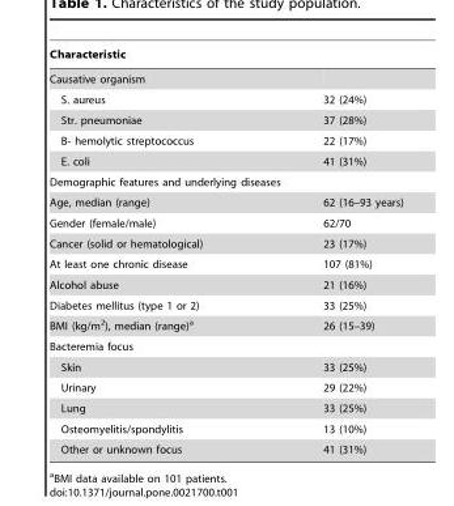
<table><thead><tr><td>Characteristic</td><td></td></tr></thead><tbody><tr><td colspan="2">Causative organism</td></tr><tr><td>S. aureus</td><td>32 (24%)</td></tr><tr><td>Str. pneumoniae</td><td>37 (28%)</td></tr><tr><td>B- hemolytic streptococcus</td><td>22 (17%)</td></tr><tr><td>E. coli</td><td>41 (31%)</td></tr><tr><td colspan="2">Demographic features and underlying diseases</td></tr><tr><td>Age, median (range)</td><td>62 (16–93 years)</td></tr><tr><td>Gender (female/male)</td><td>62/70</td></tr><tr><td>Cancer (solid or hematological)</td><td>23 (17%)</td></tr><tr><td>At least one chronic disease</td><td>107 (81%)</td></tr><tr><td>Alcohol abuse</td><td>21 (16%)</td></tr><tr><td>Diabetes mellitus (type 1 or 2)</td><td>33 (25%)</td></tr><tr><td>BMI (kg/m<sup>2</sup>), median (range)<sup>a</sup></td><td>26 (15–39)</td></tr><tr><td colspan="2">Bacteremia focus</td></tr><tr><td>Skin</td><td>33 (25%)</td></tr><tr><td>Urinary</td><td>29 (22%)</td></tr><tr><td>Lung</td><td>33 (25%)</td></tr><tr><td>Osteomyelitis/spondylitis</td><td>13 (10%)</td></tr><tr><td>Other or unknown focus</td><td>41 (31%)</td></tr></tbody></table>